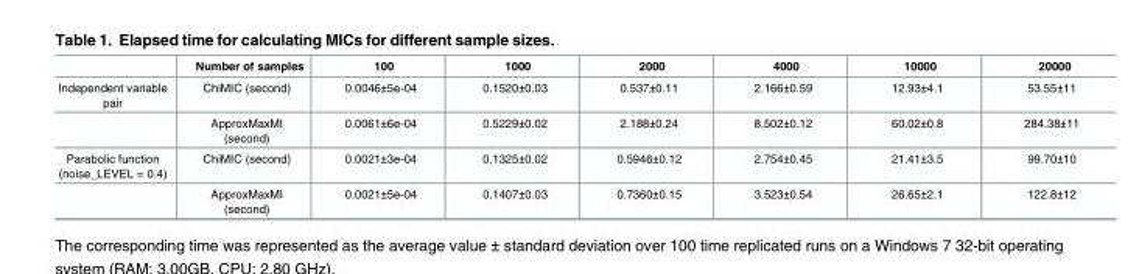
<table><thead><tr><td></td><td>Number of samples</td><td>100</td><td>1000</td><td>2000</td><td>4000</td><td>10000</td><td>20000</td></tr></thead><tbody><tr><td rowspan="2">Independent variable pair</td><td>ChiMIC (second)</td><td>0.0046±5e-04</td><td>0.1520±0.03</td><td>0.537±0.11</td><td>2.166±0.59</td><td>12.93±4.1</td><td>53.55±11</td></tr><tr><td>ApproxMaxMI (second)</td><td>0.0061±6e-04</td><td>0.5229±0.02</td><td>2.188±0.24</td><td>8.502±0.12</td><td>60.02±0.8</td><td>284.38±11</td></tr><tr><td rowspan="2">Parabolic function (noise_LEVEL = 0.4)</td><td>ChiMIC (second)</td><td>0.0021±3e-04</td><td>0.1325±0.02</td><td>0.5946±0.12</td><td>2.754±0.45</td><td>21.41±3.5</td><td>99.70±10</td></tr><tr><td>ApproxMaxMI (second)</td><td>0.0021±5e-04</td><td>0.1407±0.03</td><td>0.7360±0.15</td><td>3.523±0.54</td><td>26.65±2.1</td><td>122.8±12</td></tr></tbody></table>